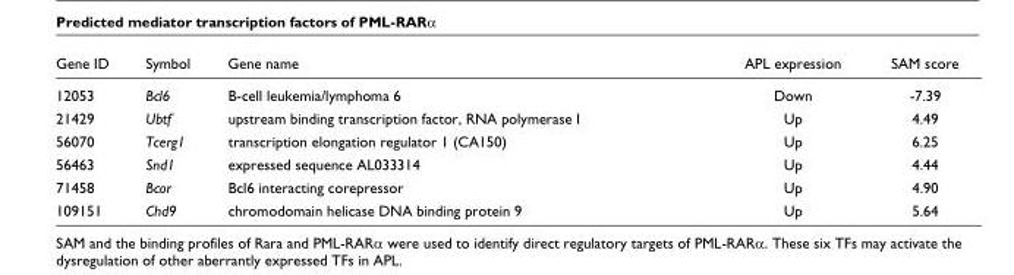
<table><thead><tr><td>Gene ID</td><td>Symbol</td><td>Gene name</td><td>APL expression</td><td>SAM score</td></tr></thead><tbody><tr><td>12053</td><td>Bcl6</td><td>B-cell leukemia/lymphoma 6</td><td>Down</td><td>-7.39</td></tr><tr><td>21429</td><td>Ubtf</td><td>upstream binding transcription factor, RNA polymerase I</td><td>Up</td><td>4.49</td></tr><tr><td>56070</td><td>Tcerg1</td><td>transcription elongation regulator 1 (CA150)</td><td>Up</td><td>6.25</td></tr><tr><td>56463</td><td>Snd1</td><td>expressed sequence AL033314</td><td>Up</td><td>4.44</td></tr><tr><td>71458</td><td>Bcor</td><td>Bcl6 interacting corepressor</td><td>Up</td><td>4.90</td></tr><tr><td>109151</td><td>Chd9</td><td>chromodomain helicase DNA binding protein 9</td><td>Up</td><td>5.64</td></tr></tbody></table>